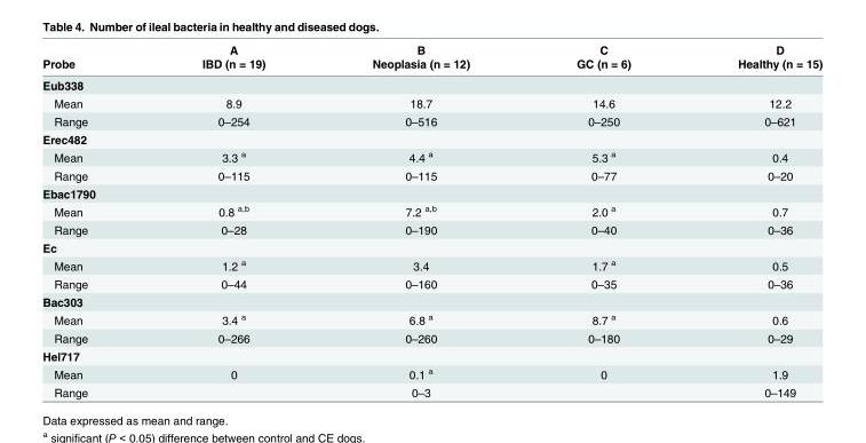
<table><thead><tr><td rowspan="2">Probe</td><td rowspan="2">A IBD (n = 19)</td><td rowspan="2">B Neoplasia (n = 12)</td><td rowspan="2">C GC (n = 6)</td><td rowspan="2">D Healthy (n = 15)</td></tr><tr></tr></thead><tbody><tr><td colspan="5">Eub338</td></tr><tr><td>Mean</td><td>8.9</td><td>18.7</td><td>14.6</td><td>12.2</td></tr><tr><td>Range</td><td>0–254</td><td>0–516</td><td>0–250</td><td>0–621</td></tr><tr><td colspan="5">Erec482</td></tr><tr><td>Mean</td><td>3.3 <sup>a</sup></td><td>4.4 <sup>a</sup></td><td>5.3 <sup>a</sup></td><td>0.4</td></tr><tr><td>Range</td><td>0–115</td><td>0–115</td><td>0–77</td><td>0–20</td></tr><tr><td colspan="5">Ebac1790</td></tr><tr><td>Mean</td><td>0.8 <sup>a,b</sup></td><td>7.2 <sup>a,b</sup></td><td>2.0 <sup>a</sup></td><td>0.7</td></tr><tr><td>Range</td><td>0–28</td><td>0–190</td><td>0–40</td><td>0–36</td></tr><tr><td colspan="5">Ec</td></tr><tr><td>Mean</td><td>1.2 <sup>a</sup></td><td>3.4</td><td>1.7 <sup>a</sup></td><td>0.5</td></tr><tr><td>Range</td><td>0–44</td><td>0–160</td><td>0–35</td><td>0–36</td></tr><tr><td colspan="5">Bac303</td></tr><tr><td>Mean</td><td>3.4 <sup>a</sup></td><td>6.8 <sup>a</sup></td><td>8.7 <sup>a</sup></td><td>0.6</td></tr><tr><td>Range</td><td>0–266</td><td>0–260</td><td>0–180</td><td>0–29</td></tr><tr><td colspan="5">Hel717</td></tr><tr><td>Mean</td><td>0</td><td>0.1 <sup>a</sup></td><td>0</td><td>1.9</td></tr><tr><td>Range</td><td></td><td>0–3</td><td></td><td>0–149</td></tr></tbody></table>